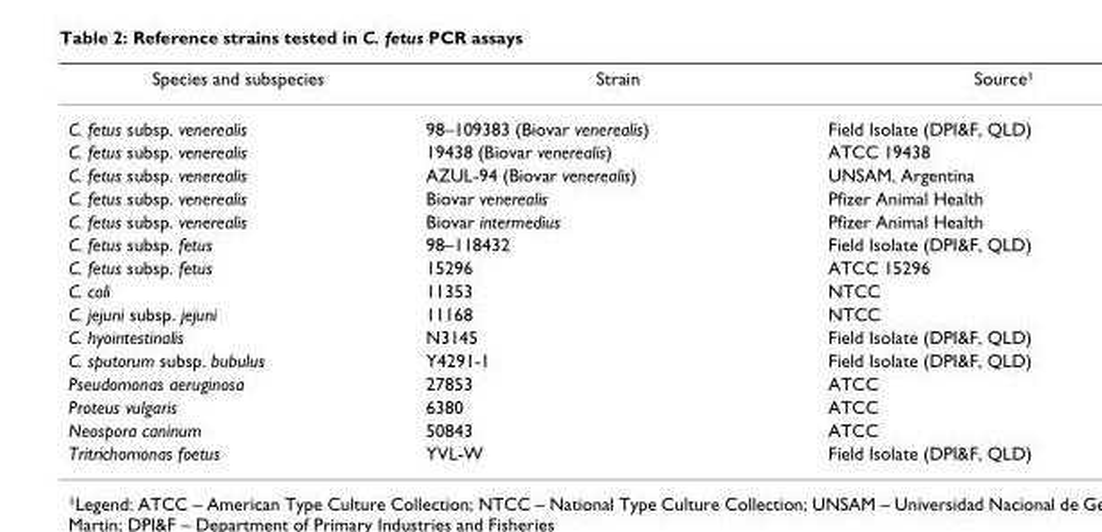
<table><thead><tr><td>Species and subspecies</td><td>Strain</td><td>Source<sup>1</sup></td></tr></thead><tbody><tr><td>C. fetus subsp. venerealis</td><td>98–109383 (Biovar venerealis)</td><td>Field Isolate (DPI&amp;F, QLD)</td></tr><tr><td>C. fetus subsp. venerealis</td><td>19438 (Biovar venerealis)</td><td>ATCC 19438</td></tr><tr><td>C. fetus subsp. venerealis</td><td>AZUL-94 (Biovar venerealis)</td><td>UNSAM, Argentina</td></tr><tr><td>C. fetus subsp. venerealis</td><td>Biovar venerealis</td><td>Pfizer Animal Health</td></tr><tr><td>C. fetus subsp. venerealis</td><td>Biovar intermedius</td><td>Pfizer Animal Health</td></tr><tr><td>C. fetus subsp. fetus</td><td>98–118432</td><td>Field Isolate (DPI&amp;F, QLD)</td></tr><tr><td>C. fetus subsp. fetus</td><td>15296</td><td>ATCC 15296</td></tr><tr><td>C. coli</td><td>11353</td><td>NTCC</td></tr><tr><td>C. jejuni subsp. jejuni</td><td>11168</td><td>NTCC</td></tr><tr><td>C. hyointestinalis</td><td>N3145</td><td>Field Isolate (DPI&amp;F, QLD)</td></tr><tr><td>C. sputorum subsp. bubulus</td><td>Y4291-1</td><td>Field Isolate (DPI&amp;F, QLD)</td></tr><tr><td>Pseudomonas aeruginosa</td><td>27853</td><td>ATCC</td></tr><tr><td>Proteus vulgaris</td><td>6380</td><td>ATCC</td></tr><tr><td>Neospora caninum</td><td>50843</td><td>ATCC</td></tr><tr><td>Tritrichomonas foetus</td><td>YVL-W</td><td>Field Isolate (DPI&amp;F, QLD)</td></tr></tbody></table>